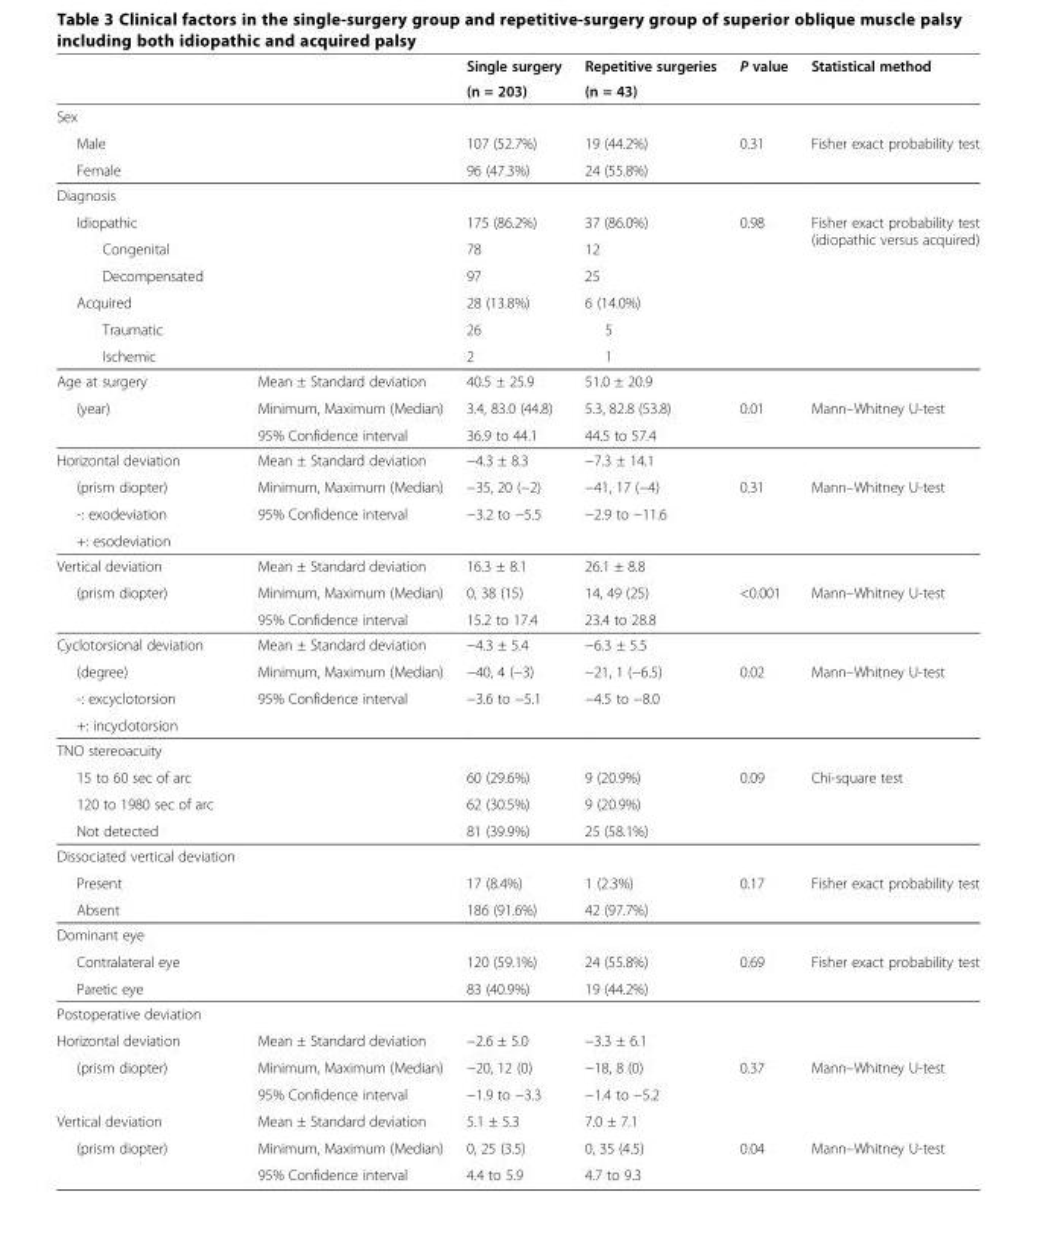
<table><thead><tr><td rowspan="2"></td><td rowspan="2"></td><td rowspan="2">Single surgery (n = 203)</td><td rowspan="2">Repetitive surgeries (n = 43)</td><td rowspan="2">P value</td><td rowspan="2">Statistical method</td></tr><tr></tr></thead><tbody><tr><td colspan="6">Sex</td></tr><tr><td>Male</td><td></td><td>107 (52.7%)</td><td>19 (44.2%)</td><td rowspan="2">0.31</td><td rowspan="2">Fisher exact probability test</td></tr><tr><td>Female</td><td></td><td>96 (47.3%)</td><td>24 (55.8%)</td></tr><tr><td colspan="6">Diagnosis</td></tr><tr><td>Idiopathic</td><td></td><td>175 (86.2%)</td><td>37 (86.0%)</td><td rowspan="4">0.98</td><td rowspan="4">Fisher exact probability test (idiopathic versus acquired)</td></tr><tr><td>Congenital</td><td></td><td>78</td><td>12</td></tr><tr><td>Decompensated</td><td></td><td>97</td><td>25</td></tr><tr><td>Acquired</td><td></td><td>28 (13.8%)</td><td>6 (14.0%)</td></tr><tr><td>Traumatic</td><td></td><td>26</td><td>5</td><td></td><td></td></tr><tr><td>Ischemic</td><td></td><td>2</td><td>1</td><td></td><td></td></tr><tr><td>Age at surgery</td><td>Mean ± Standard deviation</td><td>40.5 ± 25.9</td><td>51.0 ± 20.9</td><td></td><td></td></tr><tr><td rowspan="2">(year)</td><td>Minimum, Maximum (Median)</td><td>3.4, 83.0 (44.8)</td><td>5.3, 82.8 (53.8)</td><td>0.01</td><td>Mann–Whitney U-test</td></tr><tr><td>95% Confidence interval</td><td>36.9 to 44.1</td><td>44.5 to 57.4</td><td></td><td></td></tr><tr><td>Horizontal deviation</td><td>Mean ± Standard deviation</td><td>−4.3 ± 8.3</td><td>−7.3 ± 14.1</td><td></td><td></td></tr><tr><td>(prism diopter)</td><td>Minimum, Maximum (Median)</td><td>−35, 20 (−2)</td><td>−41, 17 (−4)</td><td>0.31</td><td>Mann–Whitney U-test</td></tr><tr><td>-: exodeviation</td><td rowspan="2">95% Confidence interval</td><td rowspan="2">−3.2 to −5.5</td><td rowspan="2">−2.9 to −11.6</td><td rowspan="2"></td><td rowspan="2"></td></tr><tr><td>+: esodeviation</td></tr><tr><td>Vertical deviation</td><td>Mean ± Standard deviation</td><td>16.3 ± 8.1</td><td>26.1 ± 8.8</td><td></td><td></td></tr><tr><td rowspan="2">(prism diopter)</td><td>Minimum, Maximum (Median)</td><td>0, 38 (15)</td><td>14, 49 (25)</td><td>&lt;0.001</td><td>Mann–Whitney U-test</td></tr><tr><td>95% Confidence interval</td><td>15.2 to 17.4</td><td>23.4 to 28.8</td><td></td><td></td></tr><tr><td>Cyclotorsional deviation</td><td>Mean ± Standard deviation</td><td>−4.3 ± 5.4</td><td>−6.3 ± 5.5</td><td></td><td></td></tr><tr><td>(degree)</td><td>Minimum, Maximum (Median)</td><td>−40, 4 (−3)</td><td>−21, 1 (−6.5)</td><td>0.02</td><td>Mann–Whitney U-test</td></tr><tr><td>-: excyclotorsion</td><td rowspan="2">95% Confidence interval</td><td rowspan="2">−3.6 to −5.1</td><td rowspan="2">−4.5 to −8.0</td><td rowspan="2"></td><td rowspan="2"></td></tr><tr><td>+: incyclotorsion</td></tr><tr><td colspan="6">TNO stereoacuity</td></tr><tr><td>15 to 60 sec of arc</td><td></td><td>60 (29.6%)</td><td>9 (20.9%)</td><td rowspan="3">0.09</td><td rowspan="3">Chi-square test</td></tr><tr><td>120 to 1980 sec of arc</td><td></td><td>62 (30.5%)</td><td>9 (20.9%)</td></tr><tr><td>Not detected</td><td></td><td>81 (39.9%)</td><td>25 (58.1%)</td></tr><tr><td colspan="6">Dissociated vertical deviation</td></tr><tr><td>Present</td><td></td><td>17 (8.4%)</td><td>1 (2.3%)</td><td rowspan="2">0.17</td><td rowspan="2">Fisher exact probability test</td></tr><tr><td>Absent</td><td></td><td>186 (91.6%)</td><td>42 (97.7%)</td></tr><tr><td colspan="6">Dominant eye</td></tr><tr><td>Contralateral eye</td><td></td><td>120 (59.1%)</td><td>24 (55.8%)</td><td rowspan="2">0.69</td><td rowspan="2">Fisher exact probability test</td></tr><tr><td>Paretic eye</td><td></td><td>83 (40.9%)</td><td>19 (44.2%)</td></tr><tr><td colspan="6">Postoperative deviation</td></tr><tr><td>Horizontal deviation</td><td>Mean ± Standard deviation</td><td>−2.6 ± 5.0</td><td>−3.3 ± 6.1</td><td></td><td></td></tr><tr><td rowspan="2">(prism diopter)</td><td>Minimum, Maximum (Median)</td><td>−20, 12 (0)</td><td>−18, 8 (0)</td><td>0.37</td><td>Mann–Whitney U-test</td></tr><tr><td>95% Confidence interval</td><td>−1.9 to −3.3</td><td>−1.4 to −5.2</td><td></td><td></td></tr><tr><td>Vertical deviation</td><td>Mean ± Standard deviation</td><td>5.1 ± 5.3</td><td>7.0 ± 7.1</td><td></td><td></td></tr><tr><td rowspan="2">(prism diopter)</td><td>Minimum, Maximum (Median)</td><td>0, 25 (3.5)</td><td>0, 35 (4.5)</td><td>0.04</td><td>Mann–Whitney U-test</td></tr><tr><td>95% Confidence interval</td><td>4.4 to 5.9</td><td>4.7 to 9.3</td><td></td><td></td></tr></tbody></table>